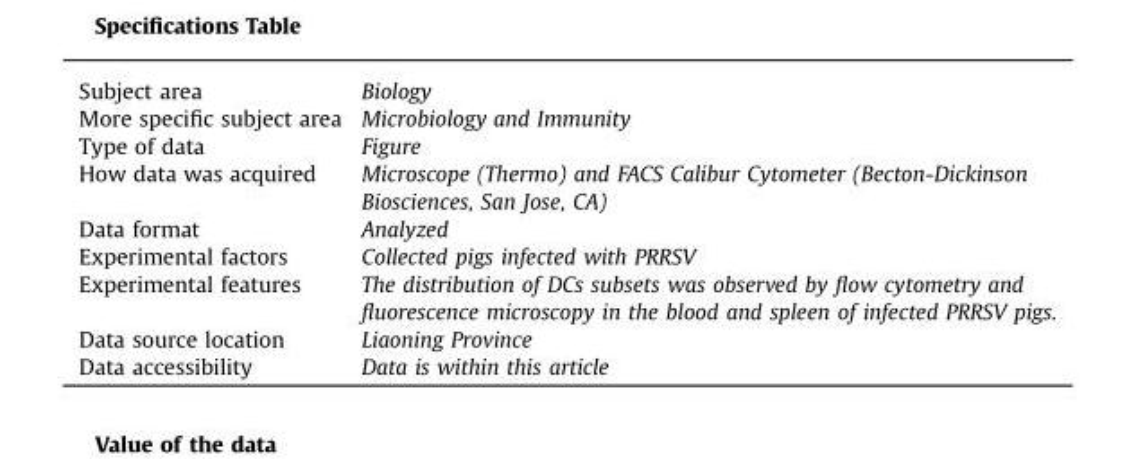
<table><tbody><tr><td>Subject area</td><td>Biology</td></tr><tr><td>More specific subject area</td><td>Microbiology and Immunity</td></tr><tr><td>Type of data</td><td>Figure</td></tr><tr><td>How data was acquired</td><td>Microscope (Thermo) and FACS Calibur Cytometer (Becton-Dickinson Biosciences, San Jose, CA)</td></tr><tr><td>Data format</td><td>Analyzed</td></tr><tr><td>Experimental factors</td><td>Collected pigs infected with PRRSV</td></tr><tr><td>Experimental features</td><td>The distribution of DCs subsets was observed by flow cytometry and fluorescence microscopy in the blood and spleen of infected PRRSV pigs.</td></tr><tr><td>Data source location</td><td>Liaoning Province</td></tr><tr><td>Data accessibility</td><td>Data is within this article</td></tr></tbody></table>